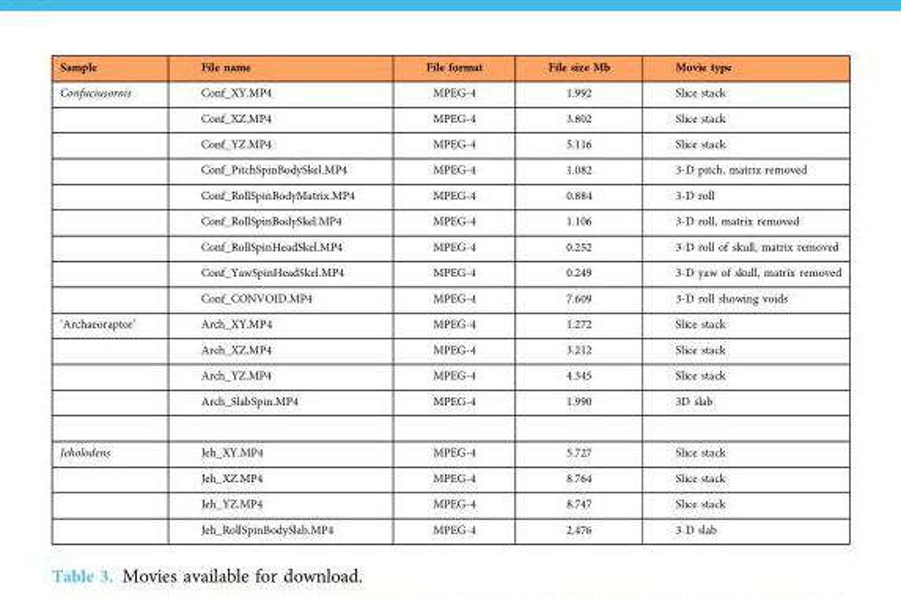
<table><thead><tr><td>Sample</td><td>File name</td><td>File format</td><td>File size Mb</td><td>Movie type</td></tr></thead><tbody><tr><td rowspan="9">Confuciusornis</td><td>Conf_XY.MP4</td><td>MPEG-4</td><td>1.992</td><td>Slice stack</td></tr><tr><td>Conf_XZ.MP4</td><td>MPEG-4</td><td>3.802</td><td>Slice stack</td></tr><tr><td>Conf_YZ.MP4</td><td>MPEG-4</td><td>5.116</td><td>Slice stack</td></tr><tr><td>Conf_PitchSpinBodySkel.MP4</td><td>MPEG-4</td><td>1.082</td><td>3-D pitch, matrix removed</td></tr><tr><td>Conf_RollSpinBodyMatrix.MP4</td><td>MPEG-4</td><td>0.884</td><td>3-D roll</td></tr><tr><td>Conf_RollSpinBodySkel.MP4</td><td>MPEG-4</td><td>1.106</td><td>3-D roll, matrix removed</td></tr><tr><td>Conf_RollSpinHeadSkel.MP4</td><td>MPEG-4</td><td>0.252</td><td>3-D roll of skull, matrix removed</td></tr><tr><td>Conf_YawSpinHeadSkel.MP4</td><td>MPEG-4</td><td>0.249</td><td>3-D yaw of skull, matrix removed</td></tr><tr><td>Conf_CONVOID.MP4</td><td>MPEG-4</td><td>7.609</td><td>3-D roll showing voids</td></tr><tr><td rowspan="4">‘Archaeoraptor’</td><td>Arch_XY.MP4</td><td>MPEG-4</td><td>1.272</td><td>Slice stack</td></tr><tr><td>Arch_XZ.MP4</td><td>MPEG-4</td><td>3.212</td><td>Slice stack</td></tr><tr><td>Arch_YZ.MP4</td><td>MPEG-4</td><td>4.345</td><td>Slice stack</td></tr><tr><td>Arch_SlabSpin.MP4</td><td>MPEG-4</td><td>1.990</td><td>3D slab</td></tr><tr><td rowspan="4">Jeholodens</td><td>Jeh_XY.MP4</td><td>MPEG-4</td><td>5.727</td><td>Slice stack</td></tr><tr><td>Jeh_XZ.MP4</td><td>MPEG-4</td><td>8.764</td><td>Slice stack</td></tr><tr><td>Jeh_YZ.MP4</td><td>MPEG-4</td><td>8.747</td><td>Slice stack</td></tr><tr><td>Jeh_RollSpinBodySlab.MP4</td><td>MPEG-4</td><td>2.476</td><td>3-D slab</td></tr></tbody></table>